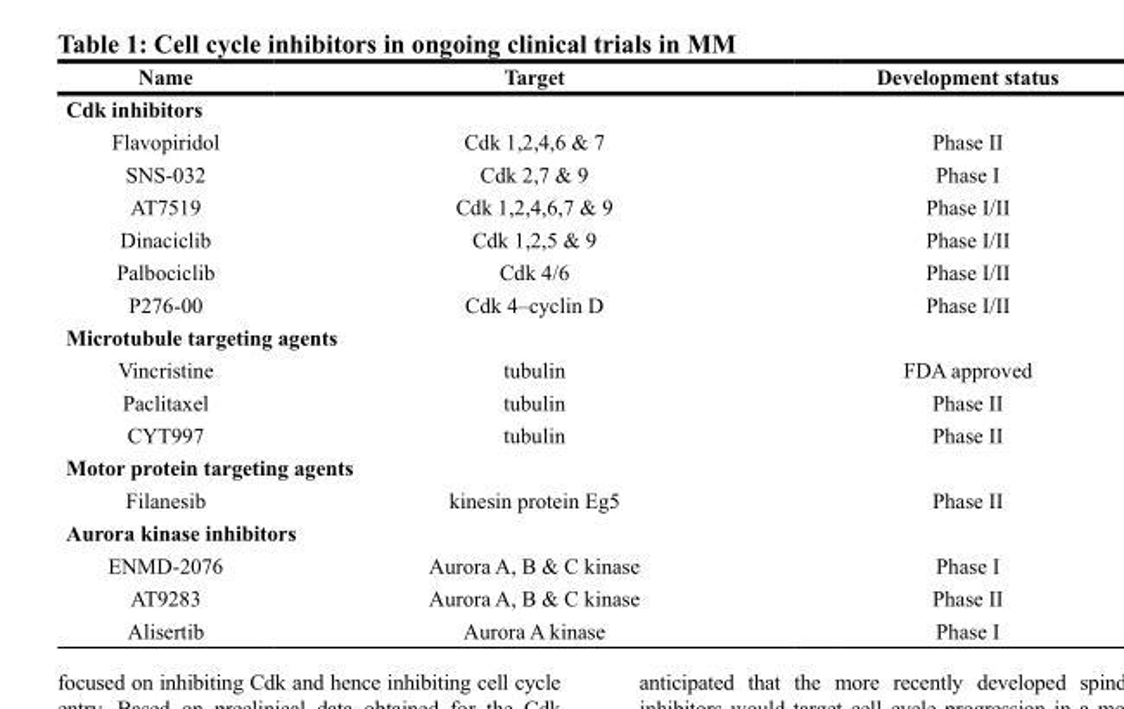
<table><thead><tr><td>Name</td><td>Target</td><td>Development status</td></tr></thead><tbody><tr><td colspan="3">Cdk inhibitors</td></tr><tr><td>Flavopiridol</td><td>Cdk 1,2,4,6 &amp; 7</td><td>Phase II</td></tr><tr><td>SNS-032</td><td>Cdk 2,7 &amp; 9</td><td>Phase I</td></tr><tr><td>AT7519</td><td>Cdk 1,2,4,6,7 &amp; 9</td><td>Phase I/II</td></tr><tr><td>Dinaciclib</td><td>Cdk 1,2,5 &amp; 9</td><td>Phase I/II</td></tr><tr><td>Palbociclib</td><td>Cdk 4/6</td><td>Phase I/II</td></tr><tr><td>P276-00</td><td>Cdk 4–cyclin D</td><td>Phase I/II</td></tr><tr><td colspan="3">Microtubule targeting agents</td></tr><tr><td>Vincristine</td><td>tubulin</td><td>FDA approved</td></tr><tr><td>Paclitaxel</td><td>tubulin</td><td>Phase II</td></tr><tr><td>CYT997</td><td>tubulin</td><td>Phase II</td></tr><tr><td colspan="3">Motor protein targeting agents</td></tr><tr><td>Filanesib</td><td>kinesin protein Eg5</td><td>Phase II</td></tr><tr><td colspan="3">Aurora kinase inhibitors</td></tr><tr><td>ENMD-2076</td><td>Aurora A, B &amp; C kinase</td><td>Phase I</td></tr><tr><td>AT9283</td><td>Aurora A, B &amp; C kinase</td><td>Phase II</td></tr><tr><td>Alisertib</td><td>Aurora A kinase</td><td>Phase I</td></tr></tbody></table>